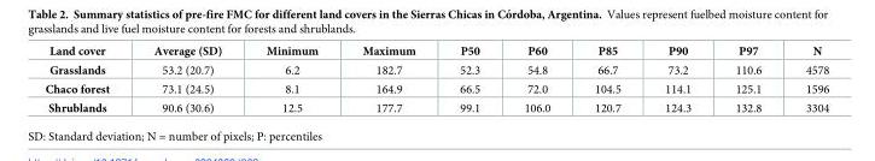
<table><thead><tr><td>Land cover</td><td>Average (SD)</td><td>Minimum</td><td>Maximum</td><td>P50</td><td>P60</td><td>P85</td><td>P90</td><td>P97</td><td>N</td></tr></thead><tbody><tr><td>Grasslands</td><td>53.2 (20.7)</td><td>6.2</td><td>182.7</td><td>52.3</td><td>54.8</td><td>66.7</td><td>73.2</td><td>110.6</td><td>4578</td></tr><tr><td>Chaco forest</td><td>73.1 (24.5)</td><td>8.1</td><td>164.9</td><td>66.5</td><td>72.0</td><td>104.5</td><td>114.1</td><td>125.1</td><td>1596</td></tr><tr><td>Shrublands</td><td>90.6 (30.6)</td><td>12.5</td><td>177.7</td><td>99.1</td><td>106.0</td><td>120.7</td><td>124.3</td><td>132.8</td><td>3304</td></tr></tbody></table>